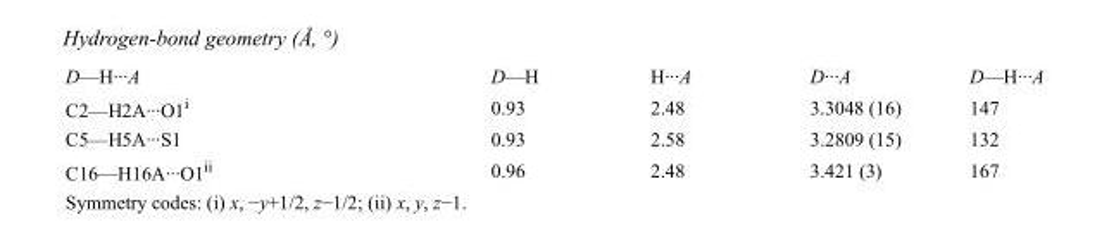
<table><tbody><tr><td>D—H···A</td><td>D—H</td><td>H···A</td><td>D···A</td><td>D—H···A</td></tr><tr><td>C2—H2A···O1<sup>i</sup></td><td>0.93</td><td>2.48</td><td>3.3048 (16)</td><td>147</td></tr><tr><td>C5—H5A···S1</td><td>0.93</td><td>2.58</td><td>3.2809 (15)</td><td>132</td></tr><tr><td>C16—H16A···O1<sup>ii</sup></td><td>0.96</td><td>2.48</td><td>3.421 (3)</td><td>167</td></tr></tbody></table>